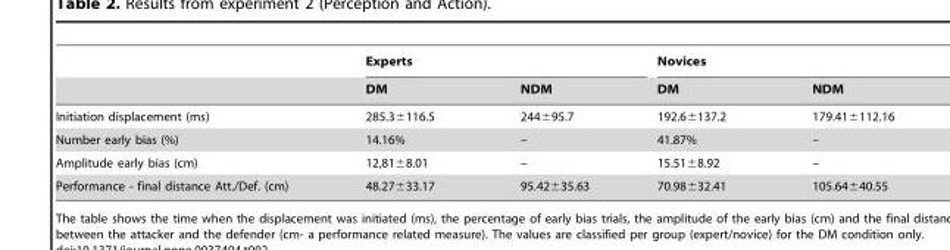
<table><thead><tr><td rowspan="2"></td><td colspan="2">Experts</td><td colspan="2">Novices</td></tr><tr><td>DM</td><td>NDM</td><td>DM</td><td>NDM</td></tr></thead><tbody><tr><td>Initiation displacement (ms)</td><td>285.3±116.5</td><td>244±95.7</td><td>192.6±137.2</td><td>179.41±112.16</td></tr><tr><td>Number early bias (%)</td><td>14.16%</td><td>–</td><td>41.87%</td><td>–</td></tr><tr><td>Amplitude early bias (cm)</td><td>12,81±8.01</td><td>–</td><td>15.51±8.92</td><td>–</td></tr><tr><td>Performance - final distance Att./Def. (cm)</td><td>48.27±33.17</td><td>95.42±35.63</td><td>70.98±32.41</td><td>105.64±40.55</td></tr></tbody></table>